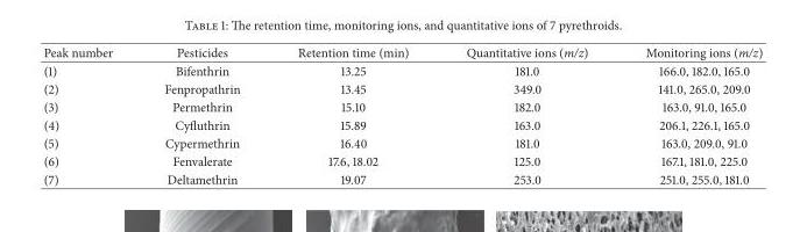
<table><thead><tr><td>Peak number</td><td>Pesticides</td><td>Retention time (min)</td><td>Quantitative ions (m/z)</td><td>Monitoring ions (m/z)</td></tr></thead><tbody><tr><td>(1)</td><td>Bifenthrin</td><td>13.25</td><td>181.0</td><td>166.0, 182.0, 165.0</td></tr><tr><td>(2)</td><td>Fenpropathrin</td><td>13.45</td><td>349.0</td><td>141.0, 265.0, 209.0</td></tr><tr><td>(3)</td><td>Permethrin</td><td>15.10</td><td>182.0</td><td>163.0, 91.0, 165.0</td></tr><tr><td>(4)</td><td>Cyfluthrin</td><td>15.89</td><td>163.0</td><td>206.1, 226.1, 165.0</td></tr><tr><td>(5)</td><td>Cypermethrin</td><td>16.40</td><td>181.0</td><td>163.0, 209.0, 91.0</td></tr><tr><td>(6)</td><td>Fenvalerate</td><td>17.6, 18.02</td><td>125.0</td><td>167.1, 181.0, 225.0</td></tr><tr><td>(7)</td><td>Deltamethrin</td><td>19.07</td><td>253.0</td><td>251.0, 255.0, 181.0</td></tr></tbody></table>